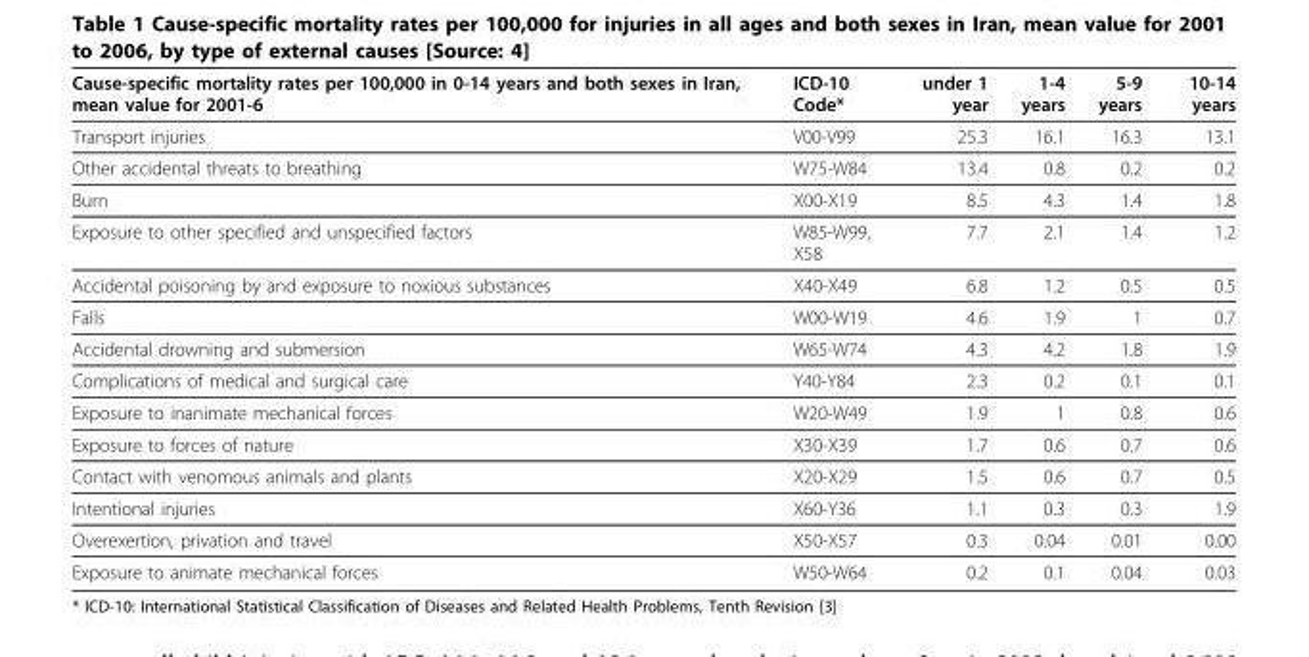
<table><thead><tr><td>Cause-specific mortality rates per 100,000 in 0-14 years and both sexes in Iran, mean value for 2001-6</td><td>ICD-10 Code*</td><td>under 1 year</td><td>1-4 years</td><td>5-9 years</td><td>10-14 years</td></tr></thead><tbody><tr><td>Transport injuries</td><td>V00-V99</td><td>25.3</td><td>16.1</td><td>16.3</td><td>13.1</td></tr><tr><td>Other accidental threats to breathing</td><td>W75-W84</td><td>13.4</td><td>0.8</td><td>0.2</td><td>0.2</td></tr><tr><td>Burn</td><td>X00-X19</td><td>8.5</td><td>4.3</td><td>1.4</td><td>1.8</td></tr><tr><td>Exposure to other specified and unspecified factors</td><td>W85-W99, X58</td><td>7.7</td><td>2.1</td><td>1.4</td><td>1.2</td></tr><tr><td>Accidental poisoning by and exposure to noxious substances</td><td>X40-X49</td><td>6.8</td><td>1.2</td><td>0.5</td><td>0.5</td></tr><tr><td>Falls</td><td>W00-W19</td><td>4.6</td><td>1.9</td><td>1</td><td>0.7</td></tr><tr><td>Accidental drowning and submersion</td><td>W65-W74</td><td>4.3</td><td>4.2</td><td>1.8</td><td>1.9</td></tr><tr><td>Complications of medical and surgical care</td><td>Y40-Y84</td><td>2.3</td><td>0.2</td><td>0.1</td><td>0.1</td></tr><tr><td>Exposure to inanimate mechanical forces</td><td>W20-W49</td><td>1.9</td><td>1</td><td>0.8</td><td>0.6</td></tr><tr><td>Exposure to forces of nature</td><td>X30-X39</td><td>1.7</td><td>0.6</td><td>0.7</td><td>0.6</td></tr><tr><td>Contact with venomous animals and plants</td><td>X20-X29</td><td>1.5</td><td>0.6</td><td>0.7</td><td>0.5</td></tr><tr><td>Intentional injuries</td><td>X60-Y36</td><td>1.1</td><td>0.3</td><td>0.3</td><td>1.9</td></tr><tr><td>Overexertion, privation and travel</td><td>X50-X57</td><td>0.3</td><td>0.04</td><td>0.01</td><td>0.00</td></tr><tr><td>Exposure to animate mechanical forces</td><td>W50-W64</td><td>0.2</td><td>0.1</td><td>0.04</td><td>0.03</td></tr></tbody></table>